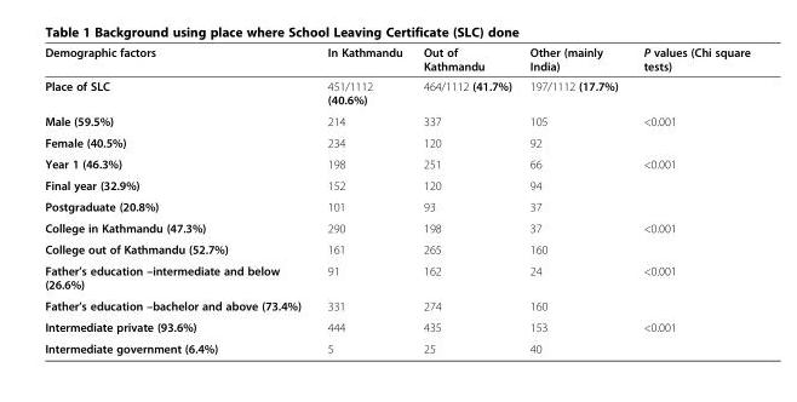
<table><thead><tr><td>Demographic factors</td><td>In Kathmandu</td><td>Out of Kathmandu</td><td>Other (mainly India)</td><td>P values (Chi square tests)</td></tr></thead><tbody><tr><td>Place of SLC</td><td>451/1112 (40.6%)</td><td>464/1112 (41.7%)</td><td>197/1112 (17.7%)</td><td></td></tr><tr><td>Male (59.5%)</td><td>214</td><td>337</td><td>105</td><td>&lt;0.001</td></tr><tr><td>Female (40.5%)</td><td>234</td><td>120</td><td>92</td><td></td></tr><tr><td>Year 1 (46.3%)</td><td>198</td><td>251</td><td>66</td><td>&lt;0.001</td></tr><tr><td>Final year (32.9%)</td><td>152</td><td>120</td><td>94</td><td></td></tr><tr><td>Postgraduate (20.8%)</td><td>101</td><td>93</td><td>37</td><td></td></tr><tr><td>College in Kathmandu (47.3%)</td><td>290</td><td>198</td><td>37</td><td>&lt;0.001</td></tr><tr><td>College out of Kathmandu (52.7%)</td><td>161</td><td>265</td><td>160</td><td></td></tr><tr><td>Father’s education –intermediate and below (26.6%)</td><td>91</td><td>162</td><td>24</td><td>&lt;0.001</td></tr><tr><td>Father’s education –bachelor and above (73.4%)</td><td>331</td><td>274</td><td>160</td><td></td></tr><tr><td>Intermediate private (93.6%)</td><td>444</td><td>435</td><td>153</td><td>&lt;0.001</td></tr><tr><td>Intermediate government (6.4%)</td><td>5</td><td>25</td><td>40</td><td></td></tr></tbody></table>